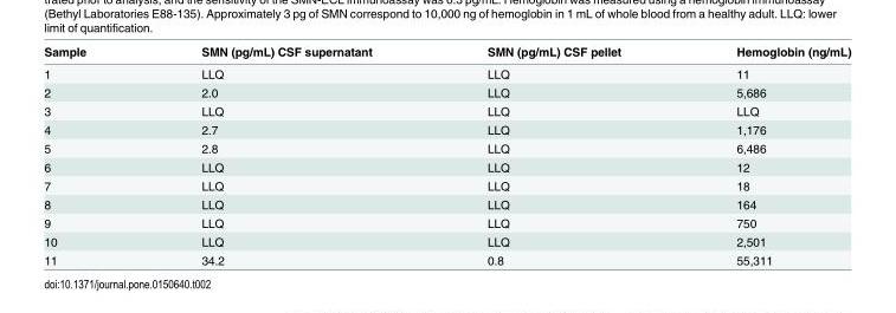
<table><thead><tr><td>Sample</td><td>SMN (pg/mL) CSF supernatant</td><td>SMN (pg/mL) CSF pellet</td><td>Hemoglobin (ng/mL)</td></tr></thead><tbody><tr><td>1</td><td>LLQ</td><td>LLQ</td><td>11</td></tr><tr><td>2</td><td>2.0</td><td>LLQ</td><td>5,686</td></tr><tr><td>3</td><td>LLQ</td><td>LLQ</td><td>LLQ</td></tr><tr><td>4</td><td>2.7</td><td>LLQ</td><td>1,176</td></tr><tr><td>5</td><td>2.8</td><td>LLQ</td><td>6,486</td></tr><tr><td>6</td><td>LLQ</td><td>LLQ</td><td>12</td></tr><tr><td>7</td><td>LLQ</td><td>LLQ</td><td>18</td></tr><tr><td>8</td><td>LLQ</td><td>LLQ</td><td>164</td></tr><tr><td>9</td><td>LLQ</td><td>LLQ</td><td>750</td></tr><tr><td>10</td><td>LLQ</td><td>LLQ</td><td>2,501</td></tr><tr><td>11</td><td>34.2</td><td>0.8</td><td>55,311</td></tr></tbody></table>